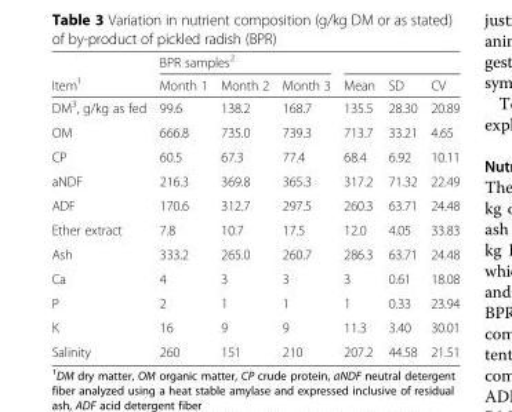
<table><thead><tr><td rowspan="2">Item<sup>1</sup></td><td colspan="3">BPR samples<sup>2</sup></td><td rowspan="2">Mean</td><td rowspan="2">SD</td><td rowspan="2">CV</td></tr><tr><td>Month 1</td><td>Month 2</td><td>Month 3</td></tr></thead><tbody><tr><td>DM<sup>3</sup>, g/kg as fed</td><td>99.6</td><td>138.2</td><td>168.7</td><td>135.5</td><td>28.30</td><td>20.89</td></tr><tr><td>OM</td><td>666.8</td><td>735.0</td><td>739.3</td><td>713.7</td><td>33.21</td><td>4.65</td></tr><tr><td>CP</td><td>60.5</td><td>67.3</td><td>77.4</td><td>68.4</td><td>6.92</td><td>10.11</td></tr><tr><td>aNDF</td><td>216.3</td><td>369.8</td><td>365.3</td><td>317.2</td><td>71.32</td><td>22.49</td></tr><tr><td>ADF</td><td>170.6</td><td>312.7</td><td>297.5</td><td>260.3</td><td>63.71</td><td>24.48</td></tr><tr><td>Ether extract</td><td>7.8</td><td>10.7</td><td>17.5</td><td>12.0</td><td>4.05</td><td>33.83</td></tr><tr><td>Ash</td><td>333.2</td><td>265.0</td><td>260.7</td><td>286.3</td><td>63.71</td><td>24.48</td></tr><tr><td>Ca</td><td>4</td><td>3</td><td>3</td><td>3</td><td>0.61</td><td>18.08</td></tr><tr><td>P</td><td>2</td><td>1</td><td>1</td><td>1</td><td>0.33</td><td>23.94</td></tr><tr><td>K</td><td>16</td><td>9</td><td>9</td><td>11.3</td><td>3.40</td><td>30.01</td></tr><tr><td>Salinity</td><td>260</td><td>151</td><td>210</td><td>207.2</td><td>44.58</td><td>21.51</td></tr></tbody></table>